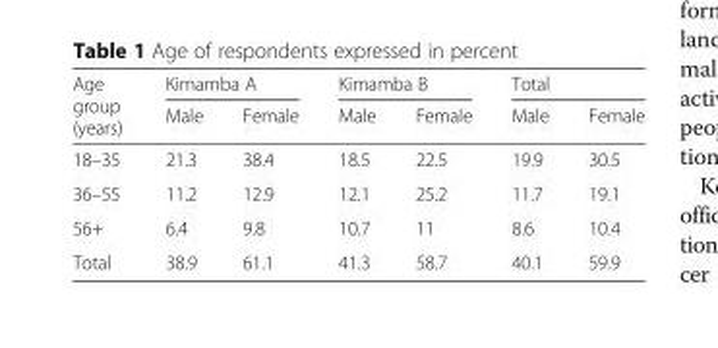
<table><thead><tr><td rowspan="2">Age group (years)</td><td colspan="2">Kimamba A</td><td colspan="2">Kimamba B</td><td colspan="2">Total</td></tr><tr><td>Male</td><td>Female</td><td>Male</td><td>Female</td><td>Male</td><td>Female</td></tr></thead><tbody><tr><td>18–35</td><td>21.3</td><td>38.4</td><td>18.5</td><td>22.5</td><td>19.9</td><td>30.5</td></tr><tr><td>36–55</td><td>11.2</td><td>12.9</td><td>12.1</td><td>25.2</td><td>11.7</td><td>19.1</td></tr><tr><td>56+</td><td>6.4</td><td>9.8</td><td>10.7</td><td>11</td><td>8.6</td><td>10.4</td></tr><tr><td>Total</td><td>38.9</td><td>61.1</td><td>41.3</td><td>58.7</td><td>40.1</td><td>59.9</td></tr></tbody></table>